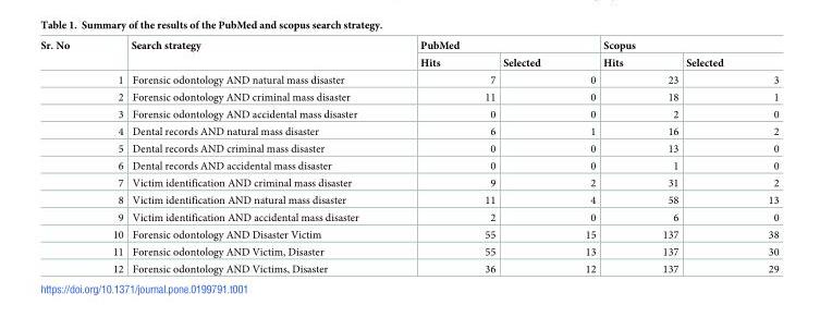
<table><thead><tr><td rowspan="2">Sr. No</td><td rowspan="2">Search strategy</td><td colspan="2">PubMed</td><td colspan="2">Scopus</td></tr><tr><td>Hits</td><td>Selected</td><td>Hits</td><td>Selected</td></tr></thead><tbody><tr><td>1</td><td>Forensic odontology AND natural mass disaster</td><td>7</td><td>0</td><td>23</td><td>3</td></tr><tr><td>2</td><td>Forensic odontology AND criminal mass disaster</td><td>11</td><td>0</td><td>18</td><td>1</td></tr><tr><td>3</td><td>Forensic odontology AND accidental mass disaster</td><td>0</td><td>0</td><td>2</td><td>0</td></tr><tr><td>4</td><td>Dental records AND natural mass disaster</td><td>6</td><td>1</td><td>16</td><td>2</td></tr><tr><td>5</td><td>Dental records AND criminal mass disaster</td><td>0</td><td>0</td><td>13</td><td>0</td></tr><tr><td>6</td><td>Dental records AND accidental mass disaster</td><td>0</td><td>0</td><td>1</td><td>0</td></tr><tr><td>7</td><td>Victim identification AND criminal mass disaster</td><td>9</td><td>2</td><td>31</td><td>2</td></tr><tr><td>8</td><td>Victim identification AND natural mass disaster</td><td>11</td><td>4</td><td>58</td><td>13</td></tr><tr><td>9</td><td>Victim identification AND accidental mass disaster</td><td>2</td><td>0</td><td>6</td><td>0</td></tr><tr><td>10</td><td>Forensic odontology AND Disaster Victim</td><td>55</td><td>15</td><td>137</td><td>38</td></tr><tr><td>11</td><td>Forensic odontology AND Victim, Disaster</td><td>55</td><td>13</td><td>137</td><td>30</td></tr><tr><td>12</td><td>Forensic odontology AND Victims, Disaster</td><td>36</td><td>12</td><td>137</td><td>29</td></tr></tbody></table>